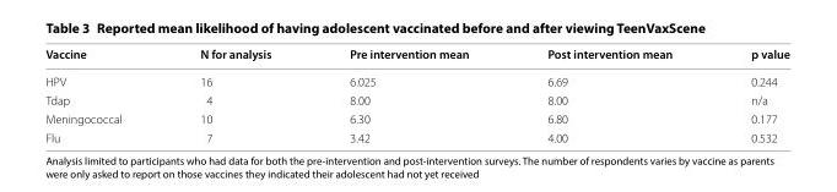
<table><thead><tr><td>Vaccine</td><td>N for analysis</td><td>Pre intervention mean</td><td>Post intervention mean</td><td>p value</td></tr></thead><tbody><tr><td>HPV</td><td>16</td><td>6.025</td><td>6.69</td><td>0.244</td></tr><tr><td>Tdap</td><td>4</td><td>8.00</td><td>8.00</td><td>n/a</td></tr><tr><td>Meningococcal</td><td>10</td><td>6.30</td><td>6.80</td><td>0.177</td></tr><tr><td>Flu</td><td>7</td><td>3.42</td><td>4.00</td><td>0.532</td></tr></tbody></table>